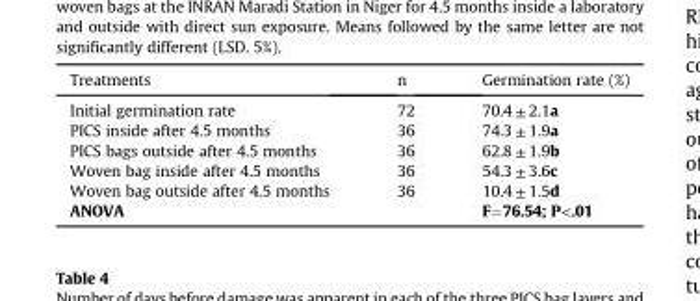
<table><thead><tr><td>Treatments</td><td>n</td><td>Germination rate (%)</td></tr></thead><tbody><tr><td>Initial germination rate</td><td>72</td><td>70.4 ± 2.1a</td></tr><tr><td>PICS inside after 4.5 months</td><td>36</td><td>74.3 ± 1.9a</td></tr><tr><td>PICS bags outside after 4.5 months</td><td>36</td><td>62.8 ± 1.9b</td></tr><tr><td>Woven bag inside after 4.5 months</td><td>36</td><td>54.3 ± 3.6c</td></tr><tr><td>Woven bag outside after 4.5 months</td><td>36</td><td>10.4 ± 1.5d</td></tr><tr><td>ANOVA</td><td></td><td>F=76.54; P&lt;.01</td></tr></tbody></table>